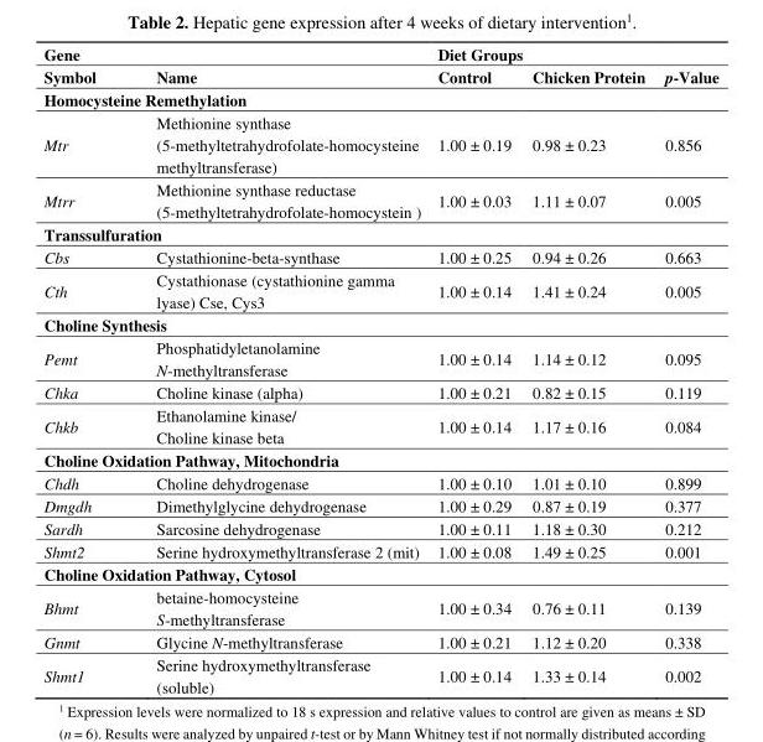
<table><thead><tr><td colspan="2">Gene</td><td colspan="2">Diet Groups</td><td rowspan="2">p-Value</td></tr><tr><td>Symbol</td><td>Name</td><td>Control</td><td>Chicken Protein</td></tr></thead><tbody><tr><td colspan="5">Homocysteine Remethylation</td></tr><tr><td>Mtr</td><td>Methionine synthase (5-methyltetrahydrofolate-homocysteine methyltransferase)</td><td>1.00 ± 0.19</td><td>0.98 ± 0.23</td><td>0.856</td></tr><tr><td>Mtrr</td><td>Methionine synthase reductase (5-methyltetrahydrofolate-homocystein )</td><td>1.00 ± 0.03</td><td>1.11 ± 0.07</td><td>0.005</td></tr><tr><td colspan="5">Transsulfuration</td></tr><tr><td>Cbs</td><td>Cystathionine-beta-synthase</td><td>1.00 ± 0.25</td><td>0.94 ± 0.26</td><td>0.663</td></tr><tr><td>Cth</td><td>Cystathionase (cystathionine gamma lyase) Cse, Cys3</td><td>1.00 ± 0.14</td><td>1.41 ± 0.24</td><td>0.005</td></tr><tr><td colspan="5">Choline Synthesis</td></tr><tr><td>Pemt</td><td>Phosphatidyletanolamine N-methyltransferase</td><td>1.00 ± 0.14</td><td>1.14 ± 0.12</td><td>0.095</td></tr><tr><td>Chka</td><td>Choline kinase (alpha)</td><td>1.00 ± 0.21</td><td>0.82 ± 0.15</td><td>0.119</td></tr><tr><td>Chkb</td><td>Ethanolamine kinase/ Choline kinase beta</td><td>1.00 ± 0.14</td><td>1.17 ± 0.16</td><td>0.084</td></tr><tr><td colspan="5">Choline Oxidation Pathway, Mitochondria</td></tr><tr><td>Chdh</td><td>Choline dehydrogenase</td><td>1.00 ± 0.10</td><td>1.01 ± 0.10</td><td>0.899</td></tr><tr><td>Dmgdh</td><td>Dimethylglycine dehydrogenase</td><td>1.00 ± 0.29</td><td>0.87 ± 0.19</td><td>0.377</td></tr><tr><td>Sardh</td><td>Sarcosine dehydrogenase</td><td>1.00 ± 0.11</td><td>1.18 ± 0.30</td><td>0.212</td></tr><tr><td>Shmt2</td><td>Serine hydroxymethyltransferase 2 (mit)</td><td>1.00 ± 0.08</td><td>1.49 ± 0.25</td><td>0.001</td></tr><tr><td colspan="5">Choline Oxidation Pathway, Cytosol</td></tr><tr><td>Bhmt</td><td>betaine-homocysteine S-methyltransferase</td><td>1.00 ± 0.34</td><td>0.76 ± 0.11</td><td>0.139</td></tr><tr><td>Gnmt</td><td>Glycine N-methyltransferase</td><td>1.00 ± 0.21</td><td>1.12 ± 0.20</td><td>0.338</td></tr><tr><td>Shmt1</td><td>Serine hydroxymethyltransferase (soluble)</td><td>1.00 ± 0.14</td><td>1.33 ± 0.14</td><td>0.002</td></tr></tbody></table>